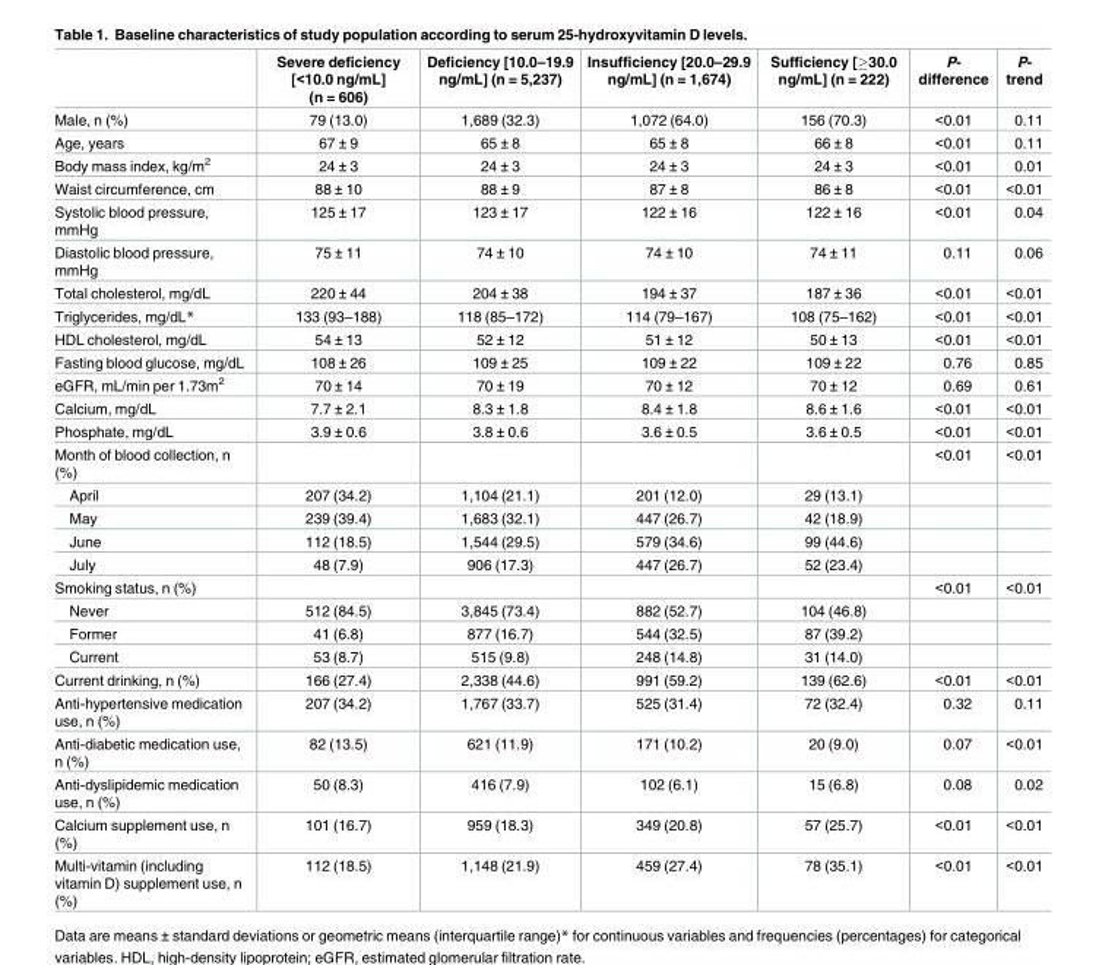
<table><thead><tr><td></td><td>Severe deficiency [&lt;10.0 ng/mL] (n = 606)</td><td>Deficiency [10.0–19.9 ng/mL] (n = 5,237)</td><td>Insufficiency [20.0–29.9 ng/mL] (n = 1,674)</td><td>Sufficiency [≥30.0 ng/mL] (n = 222)</td><td>P- difference</td><td>P- trend</td></tr></thead><tbody><tr><td>Male, n (%)</td><td>79 (13.0)</td><td>1,689 (32.3)</td><td>1,072 (64.0)</td><td>156 (70.3)</td><td>&lt;0.01</td><td>0.11</td></tr><tr><td>Age, years</td><td>67 ± 9</td><td>65 ± 8</td><td>65 ± 8</td><td>66 ± 8</td><td>&lt;0.01</td><td>0.11</td></tr><tr><td>Body mass index, kg/m<sup>2</sup></td><td>24 ± 3</td><td>24 ± 3</td><td>24 ± 3</td><td>24 ± 3</td><td>&lt;0.01</td><td>0.01</td></tr><tr><td>Waist circumference, cm</td><td>88 ± 10</td><td>88 ± 9</td><td>87 ± 8</td><td>86 ± 8</td><td>&lt;0.01</td><td>&lt;0.01</td></tr><tr><td>Systolic blood pressure, mmHg</td><td>125 ± 17</td><td>123 ± 17</td><td>122 ± 16</td><td>122 ± 16</td><td>&lt;0.01</td><td>0.04</td></tr><tr><td>Diastolic blood pressure, mmHg</td><td>75 ± 11</td><td>74 ± 10</td><td>74 ± 10</td><td>74 ± 11</td><td>0.11</td><td>0.06</td></tr><tr><td>Total cholesterol, mg/dL</td><td>220 ± 44</td><td>204 ± 38</td><td>194 ± 37</td><td>187 ± 36</td><td>&lt;0.01</td><td>&lt;0.01</td></tr><tr><td>Triglycerides, mg/dL*</td><td>133 (93–188)</td><td>118 (85–172)</td><td>114 (79–167)</td><td>108 (75–162)</td><td>&lt;0.01</td><td>&lt;0.01</td></tr><tr><td>HDL cholesterol, mg/dL</td><td>54 ± 13</td><td>52 ± 12</td><td>51 ± 12</td><td>50 ± 13</td><td>&lt;0.01</td><td>&lt;0.01</td></tr><tr><td>Fasting blood glucose, mg/dL</td><td>108 ± 26</td><td>109 ± 25</td><td>109 ± 22</td><td>109 ± 22</td><td>0.76</td><td>0.85</td></tr><tr><td>eGFR, mL/min per 1.73m<sup>2</sup></td><td>70 ± 14</td><td>70 ± 19</td><td>70 ± 12</td><td>70 ± 12</td><td>0.69</td><td>0.61</td></tr><tr><td>Calcium, mg/dL</td><td>7.7 ± 2.1</td><td>8.3 ± 1.8</td><td>8.4 ± 1.8</td><td>8.6 ± 1.6</td><td>&lt;0.01</td><td>&lt;0.01</td></tr><tr><td>Phosphate, mg/dL</td><td>3.9 ± 0.6</td><td>3.8 ± 0.6</td><td>3.6 ± 0.5</td><td>3.6 ± 0.5</td><td>&lt;0.01</td><td>&lt;0.01</td></tr><tr><td>Month of blood collection, n (%)</td><td></td><td></td><td></td><td></td><td>&lt;0.01</td><td>&lt;0.01</td></tr><tr><td>April</td><td>207 (34.2)</td><td>1,104 (21.1)</td><td>201 (12.0)</td><td>29 (13.1)</td><td></td><td></td></tr><tr><td>May</td><td>239 (39.4)</td><td>1,683 (32.1)</td><td>447 (26.7)</td><td>42 (18.9)</td><td></td><td></td></tr><tr><td>June</td><td>112 (18.5)</td><td>1,544 (29.5)</td><td>579 (34.6)</td><td>99 (44.6)</td><td></td><td></td></tr><tr><td>July</td><td>48 (7.9)</td><td>906 (17.3)</td><td>447 (26.7)</td><td>52 (23.4)</td><td></td><td></td></tr><tr><td>Smoking status, n (%)</td><td></td><td></td><td></td><td></td><td>&lt;0.01</td><td>&lt;0.01</td></tr><tr><td>Never</td><td>512 (84.5)</td><td>3,845 (73.4)</td><td>882 (52.7)</td><td>104 (46.8)</td><td></td><td></td></tr><tr><td>Former</td><td>41 (6.8)</td><td>877 (16.7)</td><td>544 (32.5)</td><td>87 (39.2)</td><td></td><td></td></tr><tr><td>Current</td><td>53 (8.7)</td><td>515 (9.8)</td><td>248 (14.8)</td><td>31 (14.0)</td><td></td><td></td></tr><tr><td>Current drinking, n (%)</td><td>166 (27.4)</td><td>2,338 (44.6)</td><td>991 (59.2)</td><td>139 (62.6)</td><td>&lt;0.01</td><td>&lt;0.01</td></tr><tr><td>Anti-hypertensive medication use, n (%)</td><td>207 (34.2)</td><td>1,767 (33.7)</td><td>525 (31.4)</td><td>72 (32.4)</td><td>0.32</td><td>0.11</td></tr><tr><td>Anti-diabetic medication use, n (%)</td><td>82 (13.5)</td><td>621 (11.9)</td><td>171 (10.2)</td><td>20 (9.0)</td><td>0.07</td><td>&lt;0.01</td></tr><tr><td>Anti-dyslipidemic medication use, n (%)</td><td>50 (8.3)</td><td>416 (7.9)</td><td>102 (6.1)</td><td>15 (6.8)</td><td>0.08</td><td>0.02</td></tr><tr><td>Calcium supplement use, n (%)</td><td>101 (16.7)</td><td>959 (18.3)</td><td>349 (20.8)</td><td>57 (25.7)</td><td>&lt;0.01</td><td>&lt;0.01</td></tr><tr><td>Multi-vitamin (including vitamin D) supplement use, n (%)</td><td>112 (18.5)</td><td>1,148 (21.9)</td><td>459 (27.4)</td><td>78 (35.1)</td><td>&lt;0.01</td><td>&lt;0.01</td></tr></tbody></table>